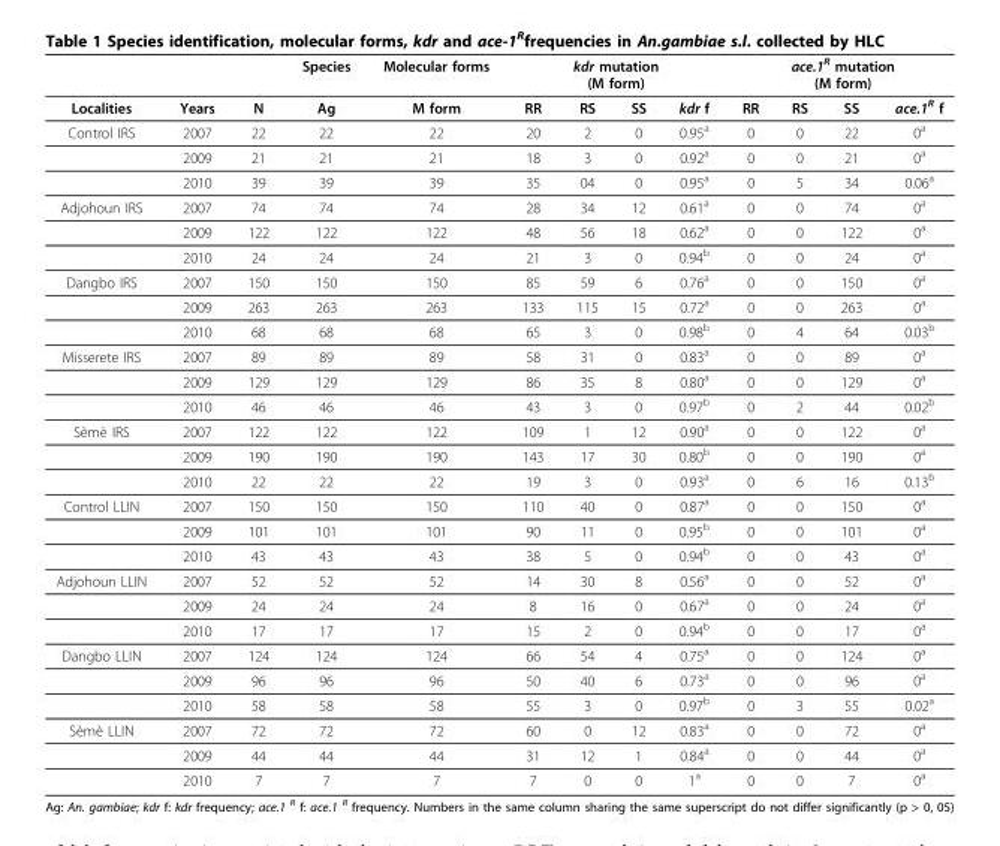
<table><thead><tr><td rowspan="2">Localities</td><td rowspan="2">Years</td><td rowspan="2">N</td><td rowspan="2">Species Ag</td><td rowspan="2">Molecular forms M form</td><td colspan="4">kdr mutation (M form)</td><td colspan="4">ace.1R mutation (M form)</td></tr><tr><td>RR</td><td>RS</td><td>SS</td><td>kdr f</td><td>RR</td><td>RS</td><td>SS</td><td>ace.1R f</td></tr></thead><tbody><tr><td rowspan="3">Control IRS</td><td>2007</td><td>22</td><td>22</td><td>22</td><td>20</td><td>2</td><td>0</td><td>0.95a</td><td>0</td><td>0</td><td>22</td><td>0a</td></tr><tr><td>2009</td><td>21</td><td>21</td><td>21</td><td>18</td><td>3</td><td>0</td><td>0.92a</td><td>0</td><td>0</td><td>21</td><td>0a</td></tr><tr><td>2010</td><td>39</td><td>39</td><td>39</td><td>35</td><td>04</td><td>0</td><td>0.95a</td><td>0</td><td>5</td><td>34</td><td>0.06<sup>a</sup></td></tr><tr><td rowspan="3">Adjohoun IRS</td><td>2007</td><td>74</td><td>74</td><td>74</td><td>28</td><td>34</td><td>12</td><td>0.61<sup>a</sup></td><td>0</td><td>0</td><td>74</td><td>0a</td></tr><tr><td>2009</td><td>122</td><td>122</td><td>122</td><td>48</td><td>56</td><td>18</td><td>0.62<sup>a</sup></td><td>0</td><td>0</td><td>122</td><td>0a</td></tr><tr><td>2010</td><td>24</td><td>24</td><td>24</td><td>21</td><td>3</td><td>0</td><td>0.94<sup>b</sup></td><td>0</td><td>0</td><td>24</td><td>0a</td></tr><tr><td rowspan="3">Dangbo IRS</td><td>2007</td><td>150</td><td>150</td><td>150</td><td>85</td><td>59</td><td>6</td><td>0.76<sup>a</sup></td><td>0</td><td>0</td><td>150</td><td>0a</td></tr><tr><td>2009</td><td>263</td><td>263</td><td>263</td><td>133</td><td>115</td><td>15</td><td>0.72<sup>a</sup></td><td>0</td><td>0</td><td>263</td><td>0a</td></tr><tr><td>2010</td><td>68</td><td>68</td><td>68</td><td>65</td><td>3</td><td>0</td><td>0.98<sup>b</sup></td><td>0</td><td>4</td><td>64</td><td>0.03<sup>b</sup></td></tr><tr><td rowspan="3">Misserete IRS</td><td>2007</td><td>89</td><td>89</td><td>89</td><td>58</td><td>31</td><td>0</td><td>0.83<sup>a</sup></td><td>0</td><td>0</td><td>89</td><td>0a</td></tr><tr><td>2009</td><td>129</td><td>129</td><td>129</td><td>86</td><td>35</td><td>8</td><td>0.80<sup>a</sup></td><td>0</td><td>0</td><td>129</td><td>0a</td></tr><tr><td>2010</td><td>46</td><td>46</td><td>46</td><td>43</td><td>3</td><td>0</td><td>0.97<sup>b</sup></td><td>0</td><td>2</td><td>44</td><td>0.02<sup>b</sup></td></tr><tr><td rowspan="3">Sèmè IRS</td><td>2007</td><td>122</td><td>122</td><td>122</td><td>109</td><td>1</td><td>12</td><td>0.90<sup>a</sup></td><td>0</td><td>0</td><td>122</td><td>0a</td></tr><tr><td>2009</td><td>190</td><td>190</td><td>190</td><td>143</td><td>17</td><td>30</td><td>0.80<sup>b</sup></td><td>0</td><td>0</td><td>190</td><td>0a</td></tr><tr><td>2010</td><td>22</td><td>22</td><td>22</td><td>19</td><td>3</td><td>0</td><td>0.93<sup>a</sup></td><td>0</td><td>6</td><td>16</td><td>0.13<sup>b</sup></td></tr><tr><td rowspan="3">Control LLIN</td><td>2007</td><td>150</td><td>150</td><td>150</td><td>110</td><td>40</td><td>0</td><td>0.87<sup>a</sup></td><td>0</td><td>0</td><td>150</td><td>0a</td></tr><tr><td>2009</td><td>101</td><td>101</td><td>101</td><td>90</td><td>11</td><td>0</td><td>0.95<sup>b</sup></td><td>0</td><td>0</td><td>101</td><td>0a</td></tr><tr><td>2010</td><td>43</td><td>43</td><td>43</td><td>38</td><td>5</td><td>0</td><td>0.94<sup>b</sup></td><td>0</td><td>0</td><td>43</td><td>0a</td></tr><tr><td rowspan="3">Adjohoun LLIN</td><td>2007</td><td>52</td><td>52</td><td>52</td><td>14</td><td>30</td><td>8</td><td>0.56<sup>a</sup></td><td>0</td><td>0</td><td>52</td><td>0a</td></tr><tr><td>2009</td><td>24</td><td>24</td><td>24</td><td>8</td><td>16</td><td>0</td><td>0.67<sup>a</sup></td><td>0</td><td>0</td><td>24</td><td>0a</td></tr><tr><td>2010</td><td>17</td><td>17</td><td>17</td><td>15</td><td>2</td><td>0</td><td>0.94<sup>b</sup></td><td>0</td><td>0</td><td>17</td><td>0a</td></tr><tr><td rowspan="3">Dangbo LLIN</td><td>2007</td><td>124</td><td>124</td><td>124</td><td>66</td><td>54</td><td>4</td><td>0.75<sup>a</sup></td><td>0</td><td>0</td><td>124</td><td>0a</td></tr><tr><td>2009</td><td>96</td><td>96</td><td>96</td><td>50</td><td>40</td><td>6</td><td>0.73<sup>a</sup></td><td>0</td><td>0</td><td>96</td><td>0a</td></tr><tr><td>2010</td><td>58</td><td>58</td><td>58</td><td>55</td><td>3</td><td>0</td><td>0.97<sup>b</sup></td><td>0</td><td>3</td><td>55</td><td>0.02<sup>a</sup></td></tr><tr><td rowspan="3">Sèmè LLIN</td><td>2007</td><td>72</td><td>72</td><td>72</td><td>60</td><td>0</td><td>12</td><td>0.83<sup>a</sup></td><td>0</td><td>0</td><td>72</td><td>0a</td></tr><tr><td>2009</td><td>44</td><td>44</td><td>44</td><td>31</td><td>12</td><td>1</td><td>0.84<sup>a</sup></td><td>0</td><td>0</td><td>44</td><td>0a</td></tr><tr><td>2010</td><td>7</td><td>7</td><td>7</td><td>7</td><td>0</td><td>0</td><td>1<sup>a</sup></td><td>0</td><td>0</td><td>7</td><td>0a</td></tr></tbody></table>